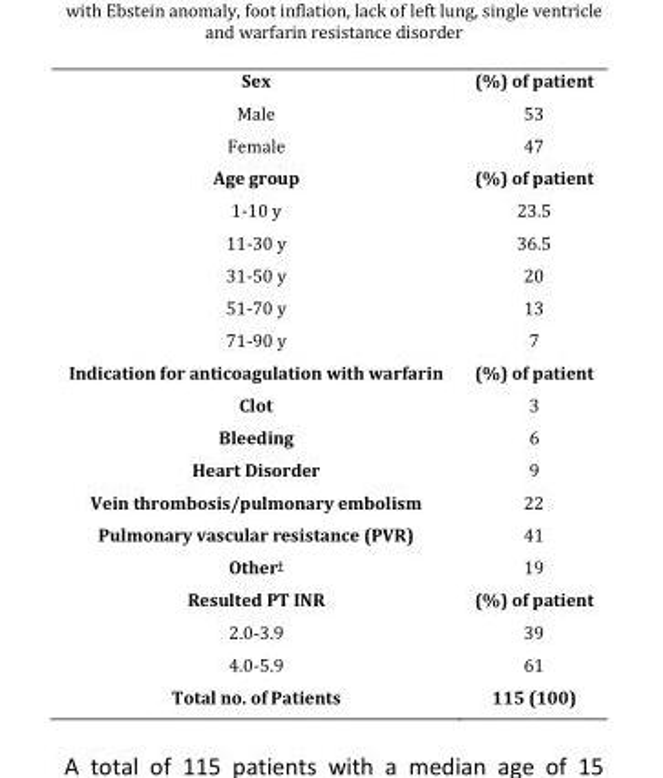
<table><tbody><tr><td>Sex</td><td>(%) of patient</td></tr><tr><td>Male</td><td>53</td></tr><tr><td>Female</td><td>47</td></tr><tr><td>Age group</td><td>(%) of patient</td></tr><tr><td>1-10 y</td><td>23.5</td></tr><tr><td>11-30 y</td><td>36.5</td></tr><tr><td>31-50 y</td><td>20</td></tr><tr><td>51-70 y</td><td>13</td></tr><tr><td>71-90 y</td><td>7</td></tr><tr><td>Indication for anticoagulation with warfarin</td><td>(%) of patient</td></tr><tr><td>Clot</td><td>3</td></tr><tr><td>Bleeding</td><td>6</td></tr><tr><td>Heart Disorder</td><td>9</td></tr><tr><td>Vein thrombosis/pulmonary embolism</td><td>22</td></tr><tr><td>Pulmonary vascular resistance (PVR)</td><td>41</td></tr><tr><td>Other<sup>†</sup></td><td>19</td></tr><tr><td>Resulted PT INR</td><td>(%) of patient</td></tr><tr><td>2.0-3.9</td><td>39</td></tr><tr><td>4.0-5.9</td><td>61</td></tr><tr><td>Total no. of Patients</td><td>115 (100)</td></tr></tbody></table>